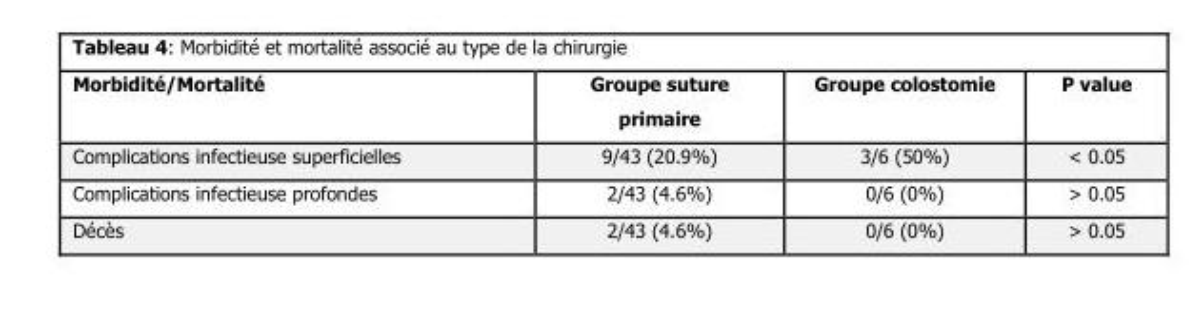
<table><thead><tr><td>Morbidité/Mortalité</td><td>Groupe suture primaire</td><td>Groupe colostomie</td><td>P value</td></tr></thead><tbody><tr><td>Complications infectieuse superficielles</td><td>9/43 (20.9%)</td><td>3/6 (50%)</td><td>&lt; 0.05</td></tr><tr><td>Complications infectieuse profondes</td><td>2/43 (4.6%)</td><td>0/6 (0%)</td><td>&gt; 0.05</td></tr><tr><td>Décès</td><td>2/43 (4.6%)</td><td>0/6 (0%)</td><td>&gt; 0.05</td></tr></tbody></table>